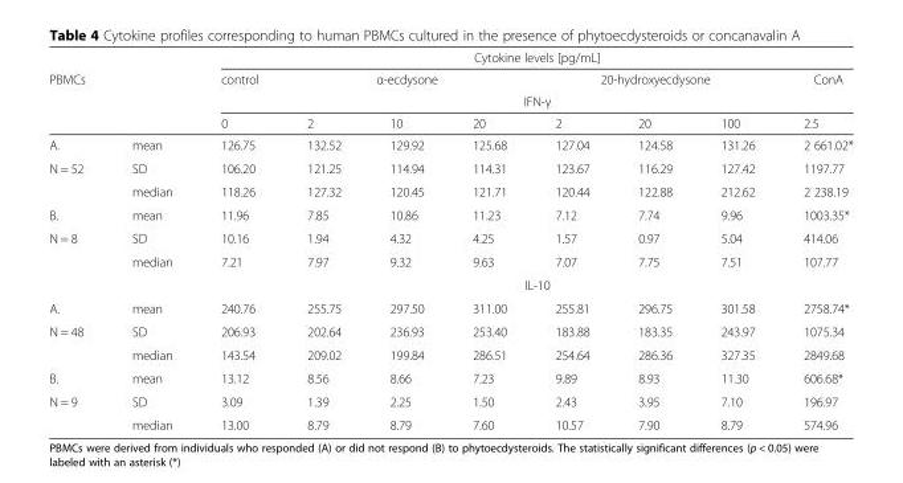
<table><thead><tr><td></td><td></td><td colspan="8">Cytokine levels [pg/mL]</td></tr><tr><td rowspan="3" colspan="2">PBMCs</td><td>control</td><td colspan="3">α-ecdysone</td><td colspan="3">20-hydroxyecdysone</td><td>ConA</td></tr><tr><td colspan="8">IFN-γ</td></tr><tr><td>0</td><td>2</td><td>10</td><td>20</td><td>2</td><td>20</td><td>100</td><td>2.5</td></tr></thead><tbody><tr><td>A.</td><td>mean</td><td>126.75</td><td>132.52</td><td>129.92</td><td>125.68</td><td>127.04</td><td>124.58</td><td>131.26</td><td>2 661.02*</td></tr><tr><td rowspan="2">N = 52</td><td>SD</td><td>106.20</td><td>121.25</td><td>114.94</td><td>114.31</td><td>123.67</td><td>116.29</td><td>127.42</td><td>1197.77</td></tr><tr><td>median</td><td>118.26</td><td>127.32</td><td>120.45</td><td>121.71</td><td>120.44</td><td>122.88</td><td>212.62</td><td>2 238.19</td></tr><tr><td>B.</td><td>mean</td><td>11.96</td><td>7.85</td><td>10.86</td><td>11.23</td><td>7.12</td><td>7.74</td><td>9.96</td><td>1003.35*</td></tr><tr><td rowspan="2">N = 8</td><td>SD</td><td>10.16</td><td>1.94</td><td>4.32</td><td>4.25</td><td>1.57</td><td>0.97</td><td>5.04</td><td>414.06</td></tr><tr><td>median</td><td>7.21</td><td>7.97</td><td>9.32</td><td>9.63</td><td>7.07</td><td>7.75</td><td>7.51</td><td>107.77</td></tr><tr><td colspan="2"></td><td colspan="8">IL-10</td></tr><tr><td>A.</td><td>mean</td><td>240.76</td><td>255.75</td><td>297.50</td><td>311.00</td><td>255.81</td><td>296.75</td><td>301.58</td><td>2758.74*</td></tr><tr><td rowspan="2">N = 48</td><td>SD</td><td>206.93</td><td>202.64</td><td>236.93</td><td>253.40</td><td>183.88</td><td>183.35</td><td>243.97</td><td>1075.34</td></tr><tr><td>median</td><td>143.54</td><td>209.02</td><td>199.84</td><td>286.51</td><td>254.64</td><td>286.36</td><td>327.35</td><td>2849.68</td></tr><tr><td>B.</td><td>mean</td><td>13.12</td><td>8.56</td><td>8.66</td><td>7.23</td><td>9.89</td><td>8.93</td><td>11.30</td><td>606.68*</td></tr><tr><td rowspan="2">N = 9</td><td>SD</td><td>3.09</td><td>1.39</td><td>2.25</td><td>1.50</td><td>2.43</td><td>3.95</td><td>7.10</td><td>196.97</td></tr><tr><td>median</td><td>13.00</td><td>8.79</td><td>8.79</td><td>7.60</td><td>10.57</td><td>7.90</td><td>8.79</td><td>574.96</td></tr></tbody></table>